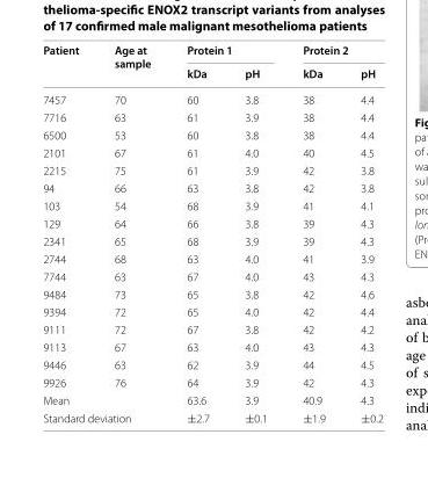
<table><thead><tr><td rowspan="2">Patient</td><td rowspan="2">Age at sample</td><td colspan="2">Protein 1</td><td colspan="2">Protein 2</td></tr><tr><td>kDa</td><td>pH</td><td>kDa</td><td>pH</td></tr></thead><tbody><tr><td>7457</td><td>70</td><td>60</td><td>3.8</td><td>38</td><td>4.4</td></tr><tr><td>7716</td><td>63</td><td>61</td><td>3.9</td><td>38</td><td>4.4</td></tr><tr><td>6500</td><td>53</td><td>60</td><td>3.8</td><td>38</td><td>4.4</td></tr><tr><td>2101</td><td>67</td><td>61</td><td>4.0</td><td>40</td><td>4.5</td></tr><tr><td>2215</td><td>75</td><td>61</td><td>3.9</td><td>42</td><td>3.8</td></tr><tr><td>94</td><td>66</td><td>63</td><td>3.8</td><td>42</td><td>3.8</td></tr><tr><td>103</td><td>54</td><td>68</td><td>3.9</td><td>41</td><td>4.1</td></tr><tr><td>129</td><td>64</td><td>66</td><td>3.8</td><td>39</td><td>4.3</td></tr><tr><td>2341</td><td>65</td><td>68</td><td>3.9</td><td>39</td><td>4.3</td></tr><tr><td>2744</td><td>68</td><td>63</td><td>4.0</td><td>41</td><td>3.9</td></tr><tr><td>7744</td><td>63</td><td>67</td><td>4.0</td><td>43</td><td>4.3</td></tr><tr><td>9484</td><td>73</td><td>65</td><td>3.8</td><td>42</td><td>4.6</td></tr><tr><td>9394</td><td>72</td><td>65</td><td>4.0</td><td>42</td><td>4.4</td></tr><tr><td>9111</td><td>72</td><td>67</td><td>3.8</td><td>42</td><td>4.2</td></tr><tr><td>9113</td><td>67</td><td>63</td><td>4.0</td><td>43</td><td>4.3</td></tr><tr><td>9446</td><td>63</td><td>62</td><td>3.9</td><td>44</td><td>4.5</td></tr><tr><td>9926</td><td>76</td><td>64</td><td>3.9</td><td>42</td><td>4.3</td></tr><tr><td colspan="2">Mean</td><td>63.6</td><td>3.9</td><td>40.9</td><td>4.3</td></tr><tr><td colspan="2">Standard deviation</td><td>±2.7</td><td>±0.1</td><td>±1.9</td><td>±0.2</td></tr></tbody></table>